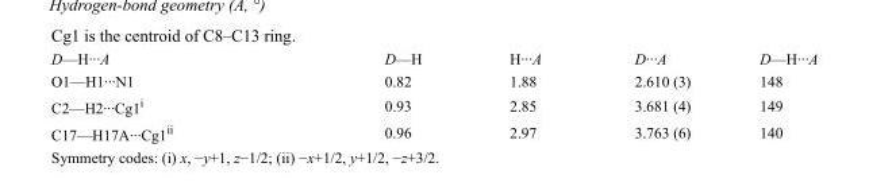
<table><tbody><tr><td>D—H···A</td><td>D—H</td><td>H···A</td><td>D···A</td><td>D—H···A</td></tr><tr><td>O1—H1···N1</td><td>0.82</td><td>1.88</td><td>2.610 (3)</td><td>148</td></tr><tr><td>C2—H2···Cg1<sup>i</sup></td><td>0.93</td><td>2.85</td><td>3.681 (4)</td><td>149</td></tr><tr><td>C17—H17A···Cg1<sup>ii</sup></td><td>0.96</td><td>2.97</td><td>3.763 (6)</td><td>140</td></tr></tbody></table>